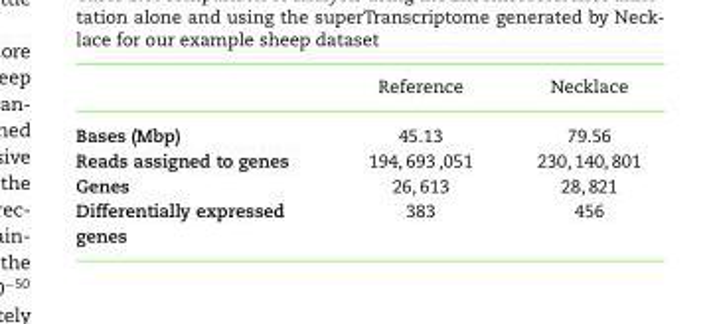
<table><thead><tr><td></td><td>Reference</td><td>Necklace</td></tr></thead><tbody><tr><td>Bases (Mbp)</td><td>45.13</td><td>79.56</td></tr><tr><td>Reads assigned to genes</td><td>194, 693 ,051</td><td>230, 140, 801</td></tr><tr><td>Genes</td><td>26, 613</td><td>28, 821</td></tr><tr><td>Differentially expressed genes</td><td>383</td><td>456</td></tr></tbody></table>